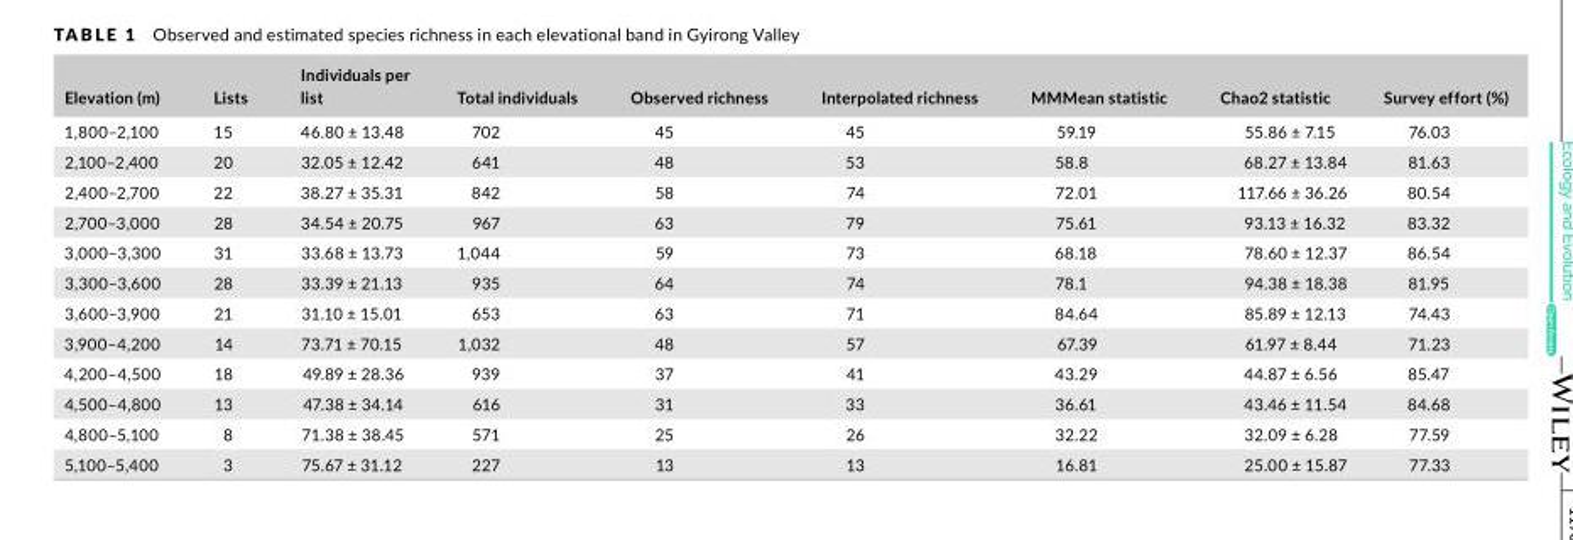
<table><thead><tr><td>Elevation (m)</td><td>Lists</td><td>Individuals per list</td><td>Total individuals</td><td>Observed richness</td><td>Interpolated richness</td><td>MMMean statistic</td><td>Chao2 statistic</td><td>Survey effort (%)</td></tr></thead><tbody><tr><td>1,800–2,100</td><td>15</td><td>46.80 ± 13.48</td><td>702</td><td>45</td><td>45</td><td>59.19</td><td>55.86 ± 7.15</td><td>76.03</td></tr><tr><td>2,100–2,400</td><td>20</td><td>32.05 ± 12.42</td><td>641</td><td>48</td><td>53</td><td>58.8</td><td>68.27 ± 13.84</td><td>81.63</td></tr><tr><td>2,400–2,700</td><td>22</td><td>38.27 ± 35.31</td><td>842</td><td>58</td><td>74</td><td>72.01</td><td>117.66 ± 36.26</td><td>80.54</td></tr><tr><td>2,700–3,000</td><td>28</td><td>34.54 ± 20.75</td><td>967</td><td>63</td><td>79</td><td>75.61</td><td>93.13 ± 16.32</td><td>83.32</td></tr><tr><td>3,000–3,300</td><td>31</td><td>33.68 ± 13.73</td><td>1,044</td><td>59</td><td>73</td><td>68.18</td><td>78.60 ± 12.37</td><td>86.54</td></tr><tr><td>3,300–3,600</td><td>28</td><td>33.39 ± 21.13</td><td>935</td><td>64</td><td>74</td><td>78.1</td><td>94.38 ± 18.38</td><td>81.95</td></tr><tr><td>3,600–3,900</td><td>21</td><td>31.10 ± 15.01</td><td>653</td><td>63</td><td>71</td><td>84.64</td><td>85.89 ± 12.13</td><td>74.43</td></tr><tr><td>3,900–4,200</td><td>14</td><td>73.71 ± 70.15</td><td>1,032</td><td>48</td><td>57</td><td>67.39</td><td>61.97 ± 8.44</td><td>71.23</td></tr><tr><td>4,200–4,500</td><td>18</td><td>49.89 ± 28.36</td><td>939</td><td>37</td><td>41</td><td>43.29</td><td>44.87 ± 6.56</td><td>85.47</td></tr><tr><td>4,500–4,800</td><td>13</td><td>47.38 ± 34.14</td><td>616</td><td>31</td><td>33</td><td>36.61</td><td>43.46 ± 11.54</td><td>84.68</td></tr><tr><td>4,800–5,100</td><td>8</td><td>71.38 ± 38.45</td><td>571</td><td>25</td><td>26</td><td>32.22</td><td>32.09 ± 6.28</td><td>77.59</td></tr><tr><td>5,100–5,400</td><td>3</td><td>75.67 ± 31.12</td><td>227</td><td>13</td><td>13</td><td>16.81</td><td>25.00 ± 15.87</td><td>77.33</td></tr></tbody></table>